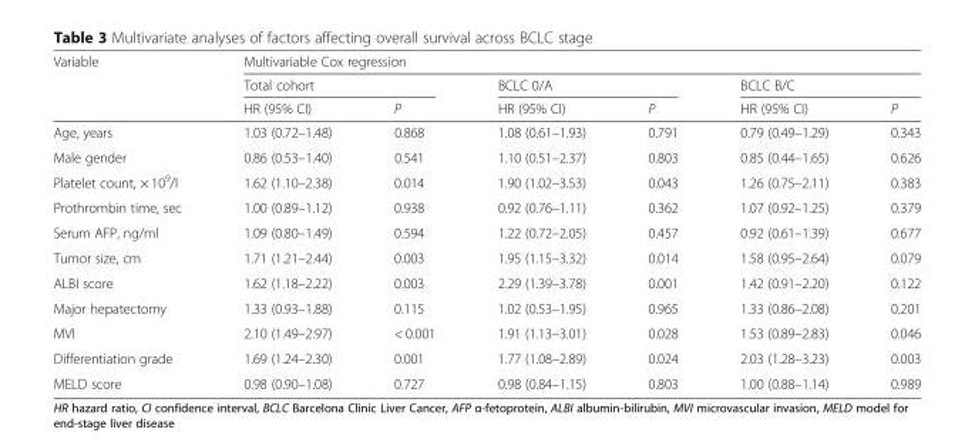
<table><thead><tr><td rowspan="3">Variable</td><td colspan="6">Multivariable Cox regression</td></tr><tr><td colspan="2">Total cohort</td><td colspan="2">BCLC 0/A</td><td colspan="2">BCLC B/C</td></tr><tr><td>HR (95% CI)</td><td>P</td><td>HR (95% CI)</td><td>P</td><td>HR (95% CI)</td><td>P</td></tr></thead><tbody><tr><td>Age, years</td><td>1.03 (0.72–1.48)</td><td>0.868</td><td>1.08 (0.61–1.93)</td><td>0.791</td><td>0.79 (0.49–1.29)</td><td>0.343</td></tr><tr><td>Male gender</td><td>0.86 (0.53–1.40)</td><td>0.541</td><td>1.10 (0.51–2.37)</td><td>0.803</td><td>0.85 (0.44–1.65)</td><td>0.626</td></tr><tr><td>Platelet count, × 10<sup>9</sup>/l</td><td>1.62 (1.10–2.38)</td><td>0.014</td><td>1.90 (1.02–3.53)</td><td>0.043</td><td>1.26 (0.75–2.11)</td><td>0.383</td></tr><tr><td>Prothrombin time, sec</td><td>1.00 (0.89–1.12)</td><td>0.938</td><td>0.92 (0.76–1.11)</td><td>0.362</td><td>1.07 (0.92–1.25)</td><td>0.379</td></tr><tr><td>Serum AFP, ng/ml</td><td>1.09 (0.80–1.49)</td><td>0.594</td><td>1.22 (0.72–2.05)</td><td>0.457</td><td>0.92 (0.61–1.39)</td><td>0.677</td></tr><tr><td>Tumor size, cm</td><td>1.71 (1.21–2.44)</td><td>0.003</td><td>1.95 (1.15–3.32)</td><td>0.014</td><td>1.58 (0.95–2.64)</td><td>0.079</td></tr><tr><td>ALBI score</td><td>1.62 (1.18–2.22)</td><td>0.003</td><td>2.29 (1.39–3.78)</td><td>0.001</td><td>1.42 (0.91–2.20)</td><td>0.122</td></tr><tr><td>Major hepatectomy</td><td>1.33 (0.93–1.88)</td><td>0.115</td><td>1.02 (0.53–1.95)</td><td>0.965</td><td>1.33 (0.86–2.08)</td><td>0.201</td></tr><tr><td>MVI</td><td>2.10 (1.49–2.97)</td><td>&lt; 0.001</td><td>1.91 (1.13–3.01)</td><td>0.028</td><td>1.53 (0.89–2.83)</td><td>0.046</td></tr><tr><td>Differentiation grade</td><td>1.69 (1.24–2.30)</td><td>0.001</td><td>1.77 (1.08–2.89)</td><td>0.024</td><td>2.03 (1.28–3.23)</td><td>0.003</td></tr><tr><td>MELD score</td><td>0.98 (0.90–1.08)</td><td>0.727</td><td>0.98 (0.84–1.15)</td><td>0.803</td><td>1.00 (0.88–1.14)</td><td>0.989</td></tr></tbody></table>